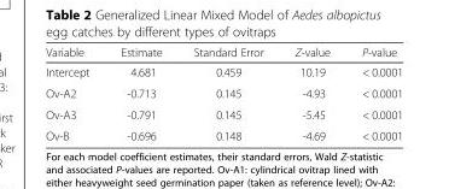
<table><thead><tr><td>Variable</td><td>Estimate</td><td>Standard Error</td><td>Z-value</td><td>P-value</td></tr></thead><tbody><tr><td>Intercept</td><td>4.681</td><td>0.459</td><td>10.19</td><td>&lt; 0.0001</td></tr><tr><td>Ov-A2</td><td>-0.713</td><td>0.145</td><td>-4.93</td><td>&lt; 0.0001</td></tr><tr><td>Ov-A3</td><td>-0.791</td><td>0.145</td><td>-5.45</td><td>&lt; 0.0001</td></tr><tr><td>Ov-B</td><td>-0.696</td><td>0.148</td><td>-4.69</td><td>&lt; 0.0001</td></tr></tbody></table>